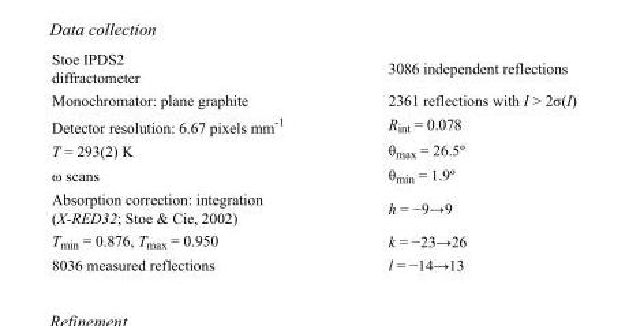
<table><tbody><tr><td>Stoe IPDS2 diffractometer</td><td>3086 independent reflections</td></tr><tr><td>Monochromator: plane graphite</td><td>2361 reflections with I &gt; 2σ(I)</td></tr><tr><td>Detector resolution: 6.67 pixels mm<sup>-1</sup></td><td>R<sub>int</sub> = 0.078</td></tr><tr><td>T = 293(2) K</td><td>θ<sub>max</sub> = 26.5º</td></tr><tr><td>ω scans</td><td>θ<sub>min</sub> = 1.9º</td></tr><tr><td>Absorption correction: integration (X-RED32; Stoe &amp; Cie, 2002)</td><td>h = −9→9</td></tr><tr><td>T<sub>min</sub> = 0.876, T<sub>max</sub> = 0.950</td><td>k = −23→26</td></tr><tr><td>8036 measured reflections</td><td>l = −14→13</td></tr></tbody></table>